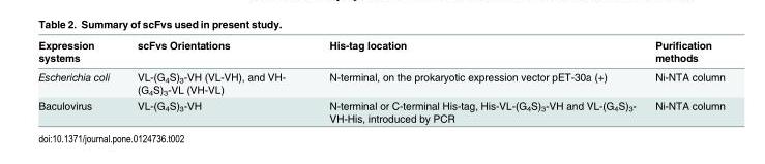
<table><thead><tr><td>Expression systems</td><td>scFvs Orientations</td><td>His-tag location</td><td>Purification methods</td></tr></thead><tbody><tr><td>Escherichia coli</td><td>VL-(G<sub>4</sub>S)<sub>3</sub>-VH (VL-VH), and VH- (G<sub>4</sub>S)<sub>3</sub>-VL (VH-VL)</td><td>N-terminal, on the prokaryotic expression vector pET-30a (+)</td><td>Ni-NTA column</td></tr><tr><td>Baculovirus</td><td>VL-(G<sub>4</sub>S)<sub>3</sub>-VH</td><td>N-terminal or C-terminal His-tag, His-VL-(G<sub>4</sub>S)<sub>3</sub>-VH and VL-(G<sub>4</sub>S)<sub>3</sub>- VH-His, introduced by PCR</td><td>Ni-NTA column</td></tr></tbody></table>